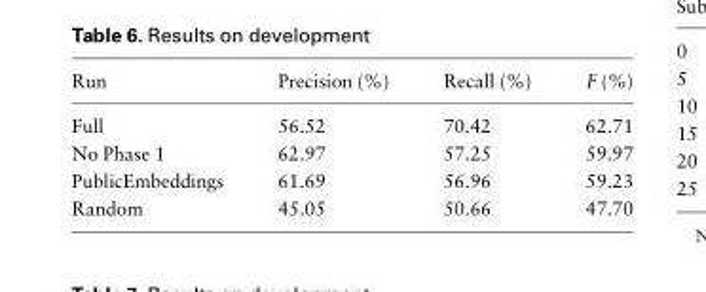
<table><thead><tr><td>Run</td><td>Precision (%)</td><td>Recall (%)</td><td>F (%)</td></tr></thead><tbody><tr><td>Full</td><td>56.52</td><td>70.42</td><td>62.71</td></tr><tr><td>No Phase 1</td><td>62.97</td><td>57.25</td><td>59.97</td></tr><tr><td>PublicEmbeddings</td><td>61.69</td><td>56.96</td><td>59.23</td></tr><tr><td>Random</td><td>45.05</td><td>50.66</td><td>47.70</td></tr></tbody></table>